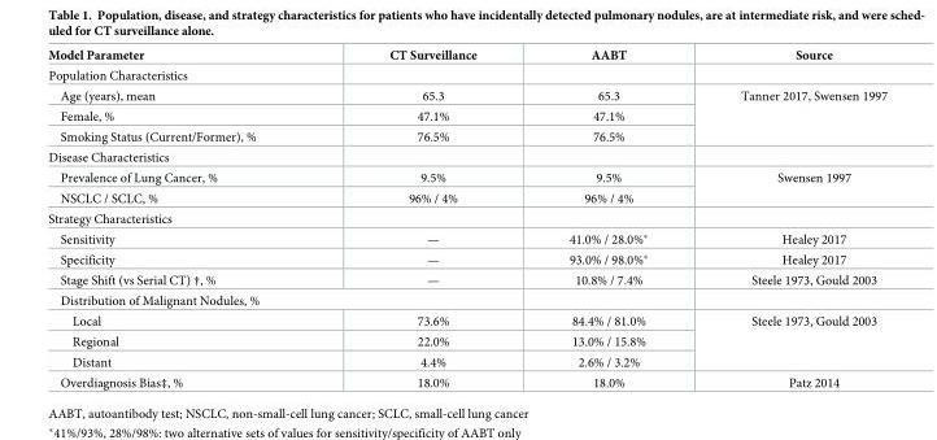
<table><thead><tr><td>Model Parameter</td><td>CT Surveillance</td><td>AABT</td><td>Source</td></tr></thead><tbody><tr><td colspan="4">Population Characteristics</td></tr><tr><td>Age (years), mean</td><td>65.3</td><td>65.3</td><td rowspan="3">Tanner 2017, Swensen 1997</td></tr><tr><td>Female, %</td><td>47.1%</td><td>47.1%</td></tr><tr><td>Smoking Status (Current/Former), %</td><td>76.5%</td><td>76.5%</td></tr><tr><td colspan="4">Disease Characteristics</td></tr><tr><td>Prevalence of Lung Cancer, %</td><td>9.5%</td><td>9.5%</td><td rowspan="2">Swensen 1997</td></tr><tr><td>NSCLC / SCLC, %</td><td>96% / 4%</td><td>96% / 4%</td></tr><tr><td colspan="4">Strategy Characteristics</td></tr><tr><td>Sensitivity</td><td>—</td><td>41.0% / 28.0%*</td><td>Healey 2017</td></tr><tr><td>Specificity</td><td>—</td><td>93.0% / 98.0%*</td><td>Healey 2017</td></tr><tr><td>Stage Shift (vs Serial CT) †, %</td><td>—</td><td>10.8% / 7.4%</td><td>Steele 1973, Gould 2003</td></tr><tr><td colspan="4">Distribution of Malignant Nodules, %</td></tr><tr><td>Local</td><td>73.6%</td><td>84.4% / 81.0%</td><td rowspan="3">Steele 1973, Gould 2003</td></tr><tr><td>Regional</td><td>22.0%</td><td>13.0% / 15.8%</td></tr><tr><td>Distant</td><td>4.4%</td><td>2.6% / 3.2%</td></tr><tr><td>Overdiagnosis Bias‡, %</td><td>18.0%</td><td>18.0%</td><td>Patz 2014</td></tr></tbody></table>